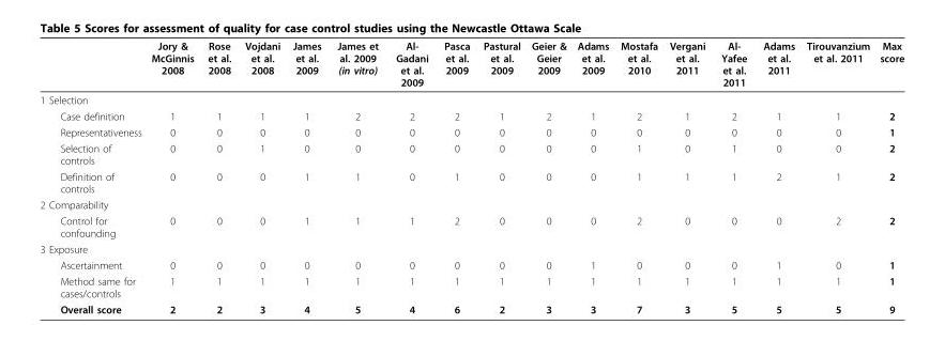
<table><thead><tr><td></td><td>Jory &amp; McGinnis 2008</td><td>Rose et al. 2008</td><td>Vojdani et al. 2008</td><td>James et al. 2009</td><td>James et al. 2009 (in vitro)</td><td>Al- Gadani et al. 2009</td><td>Pasca et al. 2009</td><td>Pastural et al. 2009</td><td>Geier &amp; Geier 2009</td><td>Adams et al. 2009</td><td>Mostafa et al. 2010</td><td>Vergani et al. 2011</td><td>Al- Yafee et al. 2011</td><td>Adams et al. 2011</td><td>Tirouvanzium et al. 2011</td><td>Max score</td></tr></thead><tbody><tr><td colspan="17">1 Selection</td></tr><tr><td>Case definition</td><td>1</td><td>1</td><td>1</td><td>1</td><td>2</td><td>2</td><td>2</td><td>1</td><td>2</td><td>1</td><td>2</td><td>1</td><td>2</td><td>1</td><td>1</td><td>2</td></tr><tr><td>Representativeness</td><td>0</td><td>0</td><td>0</td><td>0</td><td>0</td><td>0</td><td>0</td><td>0</td><td>0</td><td>0</td><td>0</td><td>0</td><td>0</td><td>0</td><td>0</td><td>1</td></tr><tr><td>Selection of controls</td><td>0</td><td>0</td><td>1</td><td>0</td><td>0</td><td>0</td><td>0</td><td>0</td><td>0</td><td>0</td><td>1</td><td>0</td><td>1</td><td>0</td><td>0</td><td>2</td></tr><tr><td>Definition of controls</td><td>0</td><td>0</td><td>0</td><td>1</td><td>1</td><td>0</td><td>1</td><td>0</td><td>0</td><td>0</td><td>1</td><td>1</td><td>1</td><td>2</td><td>1</td><td>2</td></tr><tr><td colspan="17">2 Comparability</td></tr><tr><td>Control for confounding</td><td>0</td><td>0</td><td>0</td><td>1</td><td>1</td><td>1</td><td>2</td><td>0</td><td>0</td><td>0</td><td>2</td><td>0</td><td>0</td><td>0</td><td>2</td><td>2</td></tr><tr><td colspan="17">3 Exposure</td></tr><tr><td>Ascertainment</td><td>0</td><td>0</td><td>0</td><td>0</td><td>0</td><td>0</td><td>0</td><td>0</td><td>0</td><td>1</td><td>0</td><td>0</td><td>0</td><td>1</td><td>0</td><td>1</td></tr><tr><td>Method same for cases/controls</td><td>1</td><td>1</td><td>1</td><td>1</td><td>1</td><td>1</td><td>1</td><td>1</td><td>1</td><td>1</td><td>1</td><td>1</td><td>1</td><td>1</td><td>1</td><td>1</td></tr><tr><td>Overall score</td><td>2</td><td>2</td><td>3</td><td>4</td><td>5</td><td>4</td><td>6</td><td>2</td><td>3</td><td>3</td><td>7</td><td>3</td><td>5</td><td>5</td><td>5</td><td>9</td></tr></tbody></table>